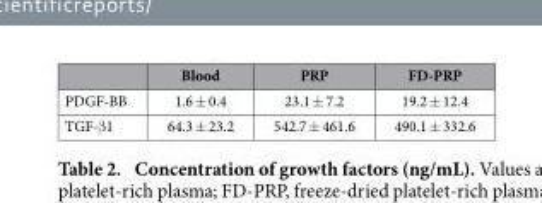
<table><thead><tr><td></td><td>Blood</td><td>PRP</td><td>FD-PRP</td></tr></thead><tbody><tr><td>PDGF-BB</td><td>1.6 ± 0.4</td><td>23.1 ± 7.2</td><td>19.2 ± 12.4</td></tr><tr><td>TGF-β 1</td><td>64.3 ± 23.2</td><td>542.7 ± 461.6</td><td>490.1 ± 332.6</td></tr></tbody></table>